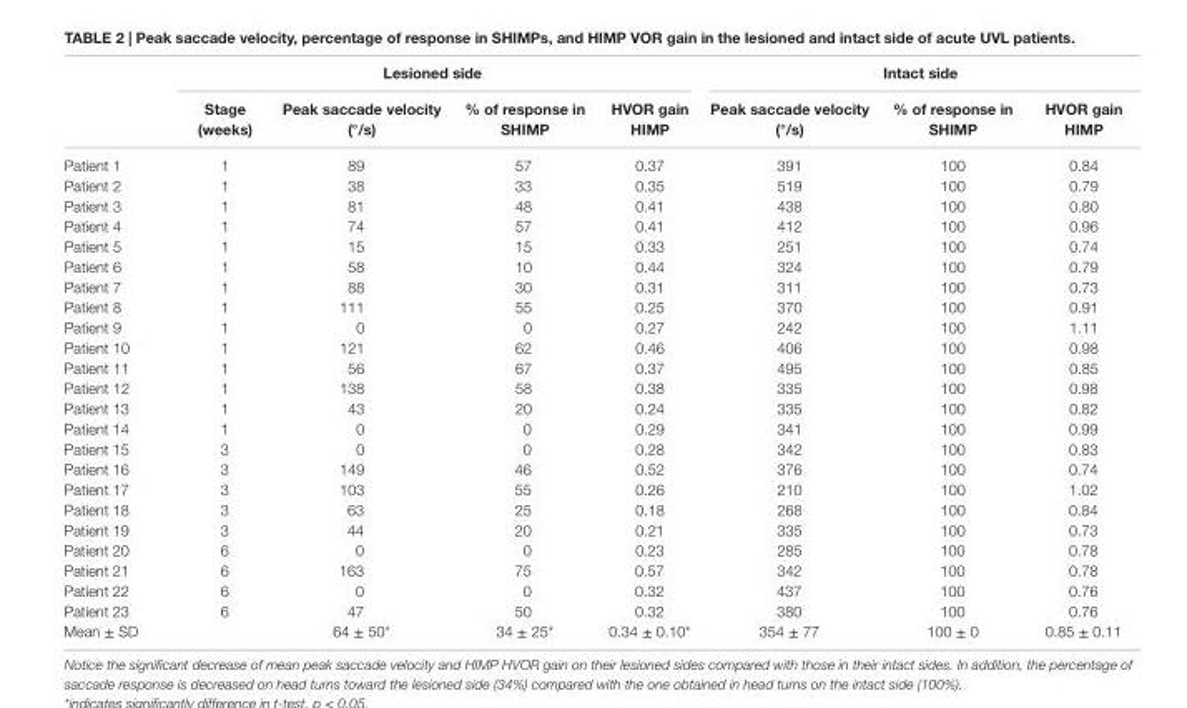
<table><thead><tr><td rowspan="2"></td><td colspan="4">lesioned side</td><td colspan="3">intact side</td></tr><tr><td>stage (weeks)</td><td>Peak saccade velocity (°/s)</td><td>% of response in shiMP</td><td>hVOr gain hiMP</td><td>Peak saccade velocity (°/s)</td><td>% of response in shiMP</td><td>hVOr gain hiMP</td></tr></thead><tbody><tr><td>Patient 1</td><td>1</td><td>89</td><td>57</td><td>0.37</td><td>391</td><td>100</td><td>0.84</td></tr><tr><td>Patient 2</td><td>1</td><td>38</td><td>33</td><td>0.35</td><td>519</td><td>100</td><td>0.79</td></tr><tr><td>Patient 3</td><td>1</td><td>81</td><td>48</td><td>0.41</td><td>438</td><td>100</td><td>0.80</td></tr><tr><td>Patient 4</td><td>1</td><td>74</td><td>57</td><td>0.41</td><td>412</td><td>100</td><td>0.96</td></tr><tr><td>Patient 5</td><td>1</td><td>15</td><td>15</td><td>0.33</td><td>251</td><td>100</td><td>0.74</td></tr><tr><td>Patient 6</td><td>1</td><td>58</td><td>10</td><td>0.44</td><td>324</td><td>100</td><td>0.79</td></tr><tr><td>Patient 7</td><td>1</td><td>88</td><td>30</td><td>0.31</td><td>311</td><td>100</td><td>0.73</td></tr><tr><td>Patient 8</td><td>1</td><td>111</td><td>55</td><td>0.25</td><td>370</td><td>100</td><td>0.91</td></tr><tr><td>Patient 9</td><td>1</td><td>0</td><td>0</td><td>0.27</td><td>242</td><td>100</td><td>1.11</td></tr><tr><td>Patient 10</td><td>1</td><td>121</td><td>62</td><td>0.46</td><td>406</td><td>100</td><td>0.98</td></tr><tr><td>Patient 11</td><td>1</td><td>56</td><td>67</td><td>0.37</td><td>495</td><td>100</td><td>0.85</td></tr><tr><td>Patient 12</td><td>1</td><td>138</td><td>58</td><td>0.38</td><td>335</td><td>100</td><td>0.98</td></tr><tr><td>Patient 13</td><td>1</td><td>43</td><td>20</td><td>0.24</td><td>335</td><td>100</td><td>0.82</td></tr><tr><td>Patient 14</td><td>1</td><td>0</td><td>0</td><td>0.29</td><td>341</td><td>100</td><td>0.99</td></tr><tr><td>Patient 15</td><td>3</td><td>0</td><td>0</td><td>0.28</td><td>342</td><td>100</td><td>0.83</td></tr><tr><td>Patient 16</td><td>3</td><td>149</td><td>46</td><td>0.52</td><td>376</td><td>100</td><td>0.74</td></tr><tr><td>Patient 17</td><td>3</td><td>103</td><td>55</td><td>0.26</td><td>210</td><td>100</td><td>1.02</td></tr><tr><td>Patient 18</td><td>3</td><td>63</td><td>25</td><td>0.18</td><td>268</td><td>100</td><td>0.84</td></tr><tr><td>Patient 19</td><td>3</td><td>44</td><td>20</td><td>0.21</td><td>335</td><td>100</td><td>0.73</td></tr><tr><td>Patient 20</td><td>6</td><td>0</td><td>0</td><td>0.23</td><td>285</td><td>100</td><td>0.78</td></tr><tr><td>Patient 21</td><td>6</td><td>163</td><td>75</td><td>0.57</td><td>342</td><td>100</td><td>0.78</td></tr><tr><td>Patient 22</td><td>6</td><td>0</td><td>0</td><td>0.32</td><td>437</td><td>100</td><td>0.76</td></tr><tr><td>Patient 23</td><td>6</td><td>47</td><td>50</td><td>0.32</td><td>380</td><td>100</td><td>0.76</td></tr><tr><td>Mean ± SD</td><td></td><td>64 ± 50*</td><td>34 ± 25*</td><td>0.34 ± 0.10*</td><td>354 ± 77</td><td>100 ± 0</td><td>0.85 ± 0.11</td></tr></tbody></table>